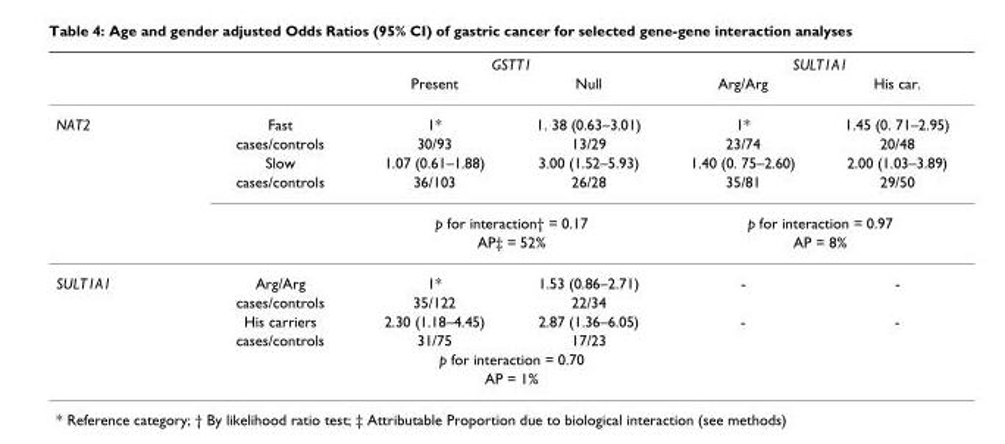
<table><thead><tr><td rowspan="2"></td><td rowspan="2"></td><td colspan="2">GSTT1</td><td colspan="2">SULT1A1</td></tr><tr><td>Present</td><td>Null</td><td>Arg/Arg</td><td>His car.</td></tr></thead><tbody><tr><td rowspan="6">NAT2</td><td>Fast</td><td>1*</td><td>1. 38 (0.63–3.01)</td><td>1*</td><td>1.45 (0. 71–2.95)</td></tr><tr><td>cases/controls</td><td>30/93</td><td>13/29</td><td>23/74</td><td>20/48</td></tr><tr><td>Slow</td><td>1.07 (0.61–1.88)</td><td>3.00 (1.52–5.93)</td><td>1.40 (0. 75–2.60)</td><td>2.00 (1.03–3.89)</td></tr><tr><td>cases/controls</td><td>36/103</td><td>26/28</td><td>35/81</td><td>29/50</td></tr><tr><td></td><td colspan="2">p for interaction† = 0.17</td><td colspan="2">p for interaction = 0.97</td></tr><tr><td></td><td colspan="2">AP‡ = 52%</td><td colspan="2">AP = 8%</td></tr><tr><td rowspan="6">SULT1A1</td><td>Arg/Arg</td><td>1*</td><td>1.53 (0.86–2.71)</td><td>-</td><td>-</td></tr><tr><td>cases/controls</td><td>35/122</td><td>22/34</td><td></td><td></td></tr><tr><td>His carriers</td><td>2.30 (1.18–4.45)</td><td>2.87 (1.36–6.05)</td><td>-</td><td>-</td></tr><tr><td>cases/controls</td><td>31/75</td><td>17/23</td><td></td><td></td></tr><tr><td></td><td colspan="2">p for interaction = 0.70</td><td></td><td></td></tr><tr><td></td><td colspan="2">AP = 1%</td><td></td><td></td></tr></tbody></table>